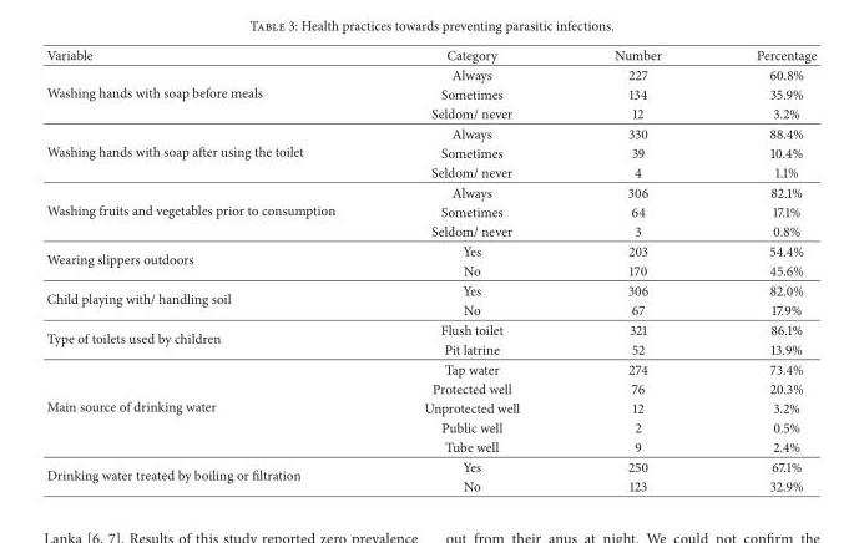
<table><thead><tr><td>Variable</td><td>Category</td><td>Number</td><td>Percentage</td></tr></thead><tbody><tr><td rowspan="3">Washing hands with soap before meals</td><td>Always</td><td>227</td><td>60.8%</td></tr><tr><td>Sometimes</td><td>134</td><td>35.9%</td></tr><tr><td>Seldom/ never</td><td>12</td><td>3.2%</td></tr><tr><td rowspan="3">Washing hands with soap after using the toilet</td><td>Always</td><td>330</td><td>88.4%</td></tr><tr><td>Sometimes</td><td>39</td><td>10.4%</td></tr><tr><td>Seldom/ never</td><td>4</td><td>1.1%</td></tr><tr><td rowspan="3">Washing fruits and vegetables prior to consumption</td><td>Always</td><td>306</td><td>82.1%</td></tr><tr><td>Sometimes</td><td>64</td><td>17.1%</td></tr><tr><td>Seldom/ never</td><td>3</td><td>0.8%</td></tr><tr><td rowspan="2">Wearing slippers outdoors</td><td>Yes</td><td>203</td><td>54.4%</td></tr><tr><td>No</td><td>170</td><td>45.6%</td></tr><tr><td rowspan="2">Child playing with/ handling soil</td><td>Yes</td><td>306</td><td>82.0%</td></tr><tr><td>No</td><td>67</td><td>17.9%</td></tr><tr><td rowspan="2">Type of toilets used by children</td><td>Flush toilet</td><td>321</td><td>86.1%</td></tr><tr><td>Pit latrine</td><td>52</td><td>13.9%</td></tr><tr><td rowspan="5">Main source of drinking water</td><td>Tap water</td><td>274</td><td>73.4%</td></tr><tr><td>Protected well</td><td>76</td><td>20.3%</td></tr><tr><td>Unprotected well</td><td>12</td><td>3.2%</td></tr><tr><td>Public well</td><td>2</td><td>0.5%</td></tr><tr><td>Tube well</td><td>9</td><td>2.4%</td></tr><tr><td rowspan="2">Drinking water treated by boiling or filtration</td><td>Yes</td><td>250</td><td>67.1%</td></tr><tr><td>No</td><td>123</td><td>32.9%</td></tr></tbody></table>